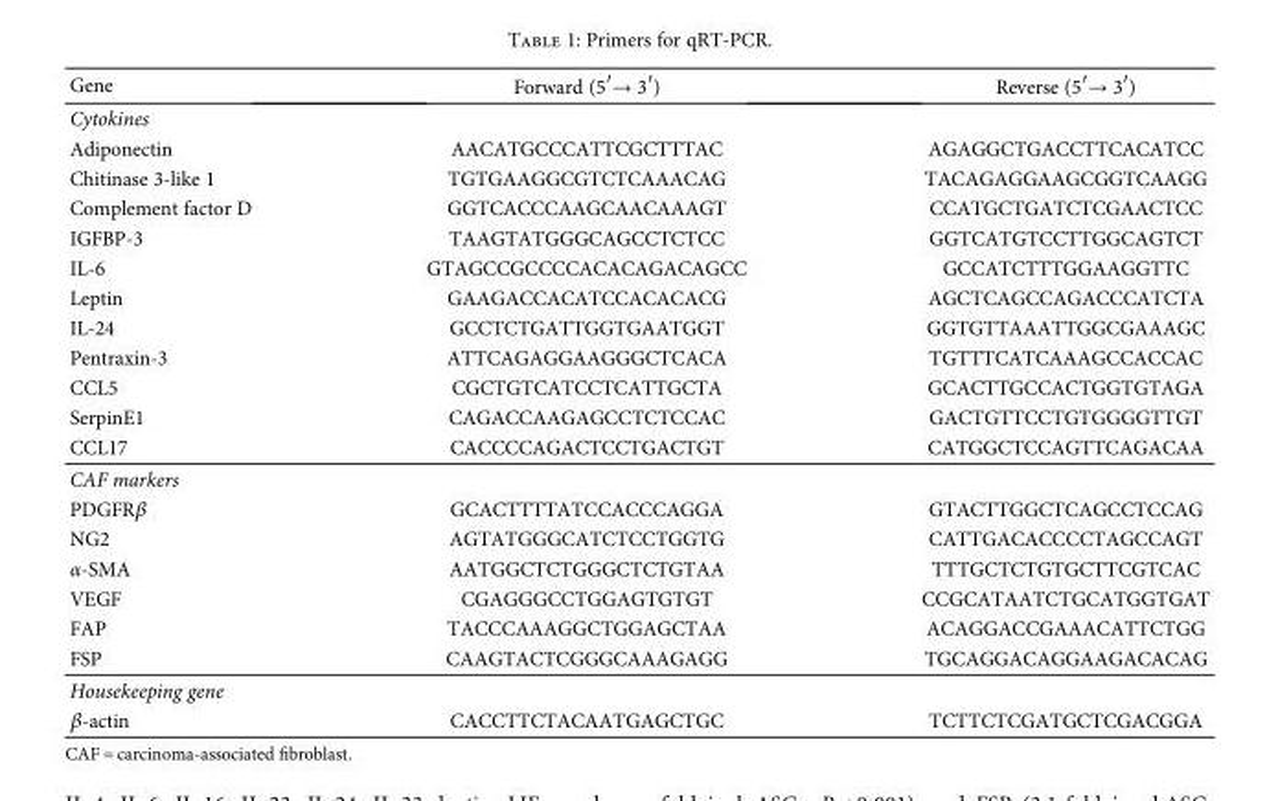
<table><thead><tr><td>Gene</td><td>Forward (5′→ 3′)</td><td>Reverse (5′→ 3′)</td></tr></thead><tbody><tr><td colspan="3">Cytokines</td></tr><tr><td>Adiponectin</td><td>AACATGCCCATTCGCTTTAC</td><td>AGAGGCTGACCTTCACATCC</td></tr><tr><td>Chitinase 3-like 1</td><td>TGTGAAGGCGTCTCAAACAG</td><td>TACAGAGGAAGCGGTCAAGG</td></tr><tr><td>Complement factor D</td><td>GGTCACCCAAGCAACAAAGT</td><td>CCATGCTGATCTCGAACTCC</td></tr><tr><td>IGFBP-3</td><td>TAAGTATGGGCAGCCTCTCC</td><td>GGTCATGTCCTTGGCAGTCT</td></tr><tr><td>IL-6</td><td>GTAGCCGCCCCACACAGACAGCC</td><td>GCCATCTTTGGAAGGTTC</td></tr><tr><td>Leptin</td><td>GAAGACCACATCCACACACG</td><td>AGCTCAGCCAGACCCATCTA</td></tr><tr><td>IL-24</td><td>GCCTCTGATTGGTGAATGGT</td><td>GGTGTTAAATTGGCGAAAGC</td></tr><tr><td>Pentraxin-3</td><td>ATTCAGAGGAAGGGCTCACA</td><td>TGTTTCATCAAAGCCACCAC</td></tr><tr><td>CCL5</td><td>CGCTGTCATCCTCATTGCTA</td><td>GCACTTGCCACTGGTGTAGA</td></tr><tr><td>SerpinE1</td><td>CAGACCAAGAGCCTCTCCAC</td><td>GACTGTTCCTGTGGGGTTGT</td></tr><tr><td>CCL17</td><td>CACCCCAGACTCCTGACTGT</td><td>CATGGCTCCAGTTCAGACAA</td></tr><tr><td colspan="3">CAF markers</td></tr><tr><td>PDGFRβ</td><td>GCACTTTTATCCACCCAGGA</td><td>GTACTTGGCTCAGCCTCCAG</td></tr><tr><td>NG2</td><td>AGTATGGGCATCTCCTGGTG</td><td>CATTGACACCCCTAGCCAGT</td></tr><tr><td>α-SMA</td><td>AATGGCTCTGGGCTCTGTAA</td><td>TTTGCTCTGTGCTTCGTCAC</td></tr><tr><td>VEGF</td><td>CGAGGGCCTGGAGTGTGT</td><td>CCGCATAATCTGCATGGTGAT</td></tr><tr><td>FAP</td><td>TACCCAAAGGCTGGAGCTAA</td><td>ACAGGACCGAAACATTCTGG</td></tr><tr><td>FSP</td><td>CAAGTACTCGGGCAAAGAGG</td><td>TGCAGGACAGGAAGACACAG</td></tr><tr><td colspan="3">Housekeeping gene</td></tr><tr><td>β-actin</td><td>CACCTTCTACAATGAGCTGC</td><td>TCTTCTCGATGCTCGACGGA</td></tr></tbody></table>